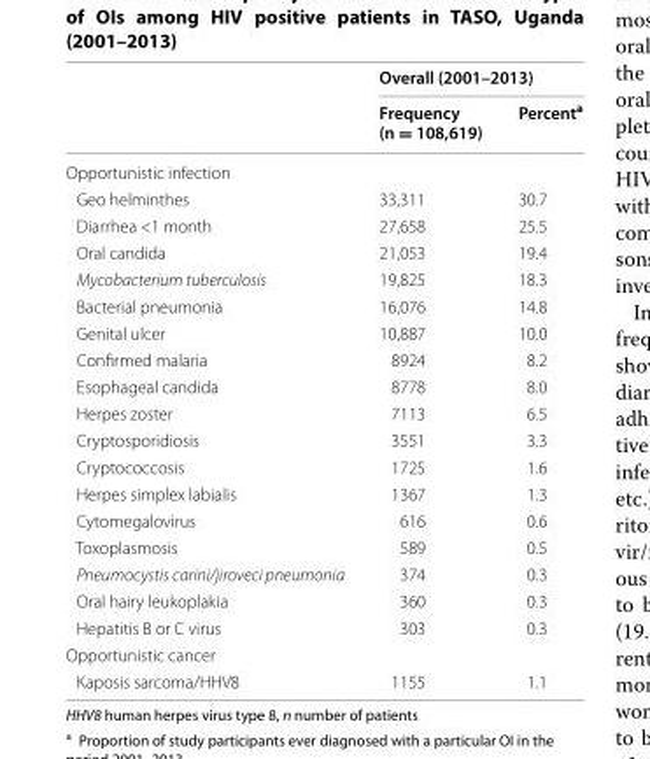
<table><thead><tr><td rowspan="2"></td><td colspan="2">Overall (2001–2013)</td></tr><tr><td>Frequency (n = 108,619)</td><td>Percent<sup>a</sup></td></tr></thead><tbody><tr><td colspan="3">Opportunistic infection</td></tr><tr><td>Geo helminthes</td><td>33,311</td><td>30.7</td></tr><tr><td>Diarrhea &lt;1 month</td><td>27,658</td><td>25.5</td></tr><tr><td>Oral candida</td><td>21,053</td><td>19.4</td></tr><tr><td>Mycobacterium tuberculosis</td><td>19,825</td><td>18.3</td></tr><tr><td>Bacterial pneumonia</td><td>16,076</td><td>14.8</td></tr><tr><td>Genital ulcer</td><td>10,887</td><td>10.0</td></tr><tr><td>Confirmed malaria</td><td>8924</td><td>8.2</td></tr><tr><td>Esophageal candida</td><td>8778</td><td>8.0</td></tr><tr><td>Herpes zoster</td><td>7113</td><td>6.5</td></tr><tr><td>Cryptosporidiosis</td><td>3551</td><td>3.3</td></tr><tr><td>Cryptococcosis</td><td>1725</td><td>1.6</td></tr><tr><td>Herpes simplex labialis</td><td>1367</td><td>1.3</td></tr><tr><td>Cytomegalovirus</td><td>616</td><td>0.6</td></tr><tr><td>Toxoplasmosis</td><td>589</td><td>0.5</td></tr><tr><td>Pneumocystis carini/jiroveci pneumonia</td><td>374</td><td>0.3</td></tr><tr><td>Oral hairy leukoplakia</td><td>360</td><td>0.3</td></tr><tr><td>Hepatitis B or C virus</td><td>303</td><td>0.3</td></tr><tr><td colspan="3">Opportunistic cancer</td></tr><tr><td>Kaposis sarcoma/HHV8</td><td>1155</td><td>1.1</td></tr></tbody></table>